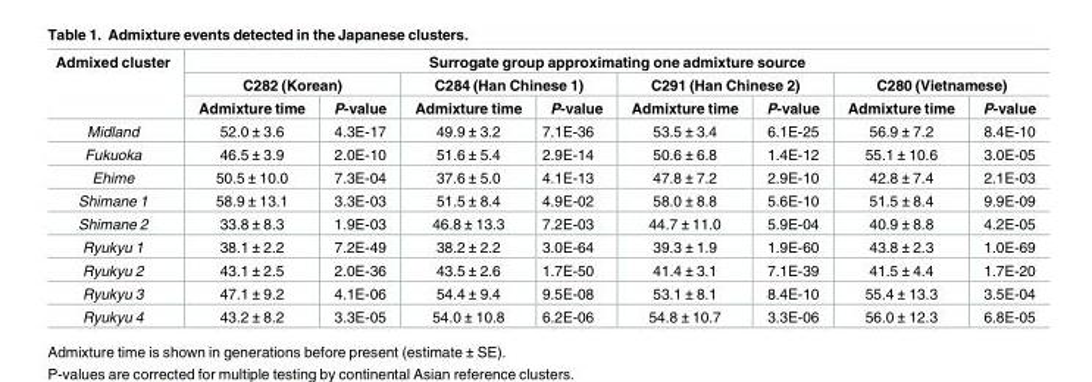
<table><thead><tr><td rowspan="3">Admixed cluster</td><td colspan="8">Surrogate group approximating one admixture source</td></tr><tr><td colspan="2">C282 (Korean)</td><td colspan="2">C284 (Han Chinese 1)</td><td colspan="2">C291 (Han Chinese 2)</td><td colspan="2">C280 (Vietnamese)</td></tr><tr><td>Admixture time</td><td>P-value</td><td>Admixture time</td><td>P-value</td><td>Admixture time</td><td>P-value</td><td>Admixture time</td><td>P-value</td></tr></thead><tbody><tr><td>Midland</td><td>52.0 ± 3.6</td><td>4.3E-17</td><td>49.9 ± 3.2</td><td>7.1E-36</td><td>53.5 ± 3.4</td><td>6.1E-25</td><td>56.9 ± 7.2</td><td>8.4E-10</td></tr><tr><td>Fukuoka</td><td>46.5 ± 3.9</td><td>2.0E-10</td><td>51.6 ± 5.4</td><td>2.9E-14</td><td>50.6 ± 6.8</td><td>1.4E-12</td><td>55.1 ± 10.6</td><td>3.0E-05</td></tr><tr><td>Ehime</td><td>50.5 ± 10.0</td><td>7.3E-04</td><td>37.6 ± 5.0</td><td>4.1E-13</td><td>47.8 ± 7.2</td><td>2.9E-10</td><td>42.8 ± 7.4</td><td>2.1E-03</td></tr><tr><td>Shimane 1</td><td>58.9 ± 13.1</td><td>3.3E-03</td><td>51.5 ± 8.4</td><td>4.9E-02</td><td>58.0 ± 8.8</td><td>5.6E-10</td><td>51.5 ± 8.4</td><td>9.9E-09</td></tr><tr><td>Shimane 2</td><td>33.8 ± 8.3</td><td>1.9E-03</td><td>46.8 ± 13.3</td><td>7.2E-03</td><td>44.7 ± 11.0</td><td>5.9E-04</td><td>40.9 ± 8.8</td><td>4.2E-05</td></tr><tr><td>Ryukyu 1</td><td>38.1 ± 2.2</td><td>7.2E-49</td><td>38.2 ± 2.2</td><td>3.0E-64</td><td>39.3 ± 1.9</td><td>1.9E-60</td><td>43.8 ± 2.3</td><td>1.0E-69</td></tr><tr><td>Ryukyu 2</td><td>43.1 ± 2.5</td><td>2.0E-36</td><td>43.5 ± 2.6</td><td>1.7E-50</td><td>41.4 ± 3.1</td><td>7.1E-39</td><td>41.5 ± 4.4</td><td>1.7E-20</td></tr><tr><td>Ryukyu 3</td><td>47.1 ± 9.2</td><td>4.1E-06</td><td>54.4 ± 9.4</td><td>9.5E-08</td><td>53.1 ± 8.1</td><td>8.4E-10</td><td>55.4 ± 13.3</td><td>3.5E-04</td></tr><tr><td>Ryukyu 4</td><td>43.2 ± 8.2</td><td>3.3E-05</td><td>54.0 ± 10.8</td><td>6.2E-06</td><td>54.8 ± 10.7</td><td>3.3E-06</td><td>56.0 ± 12.3</td><td>6.8E-05</td></tr></tbody></table>